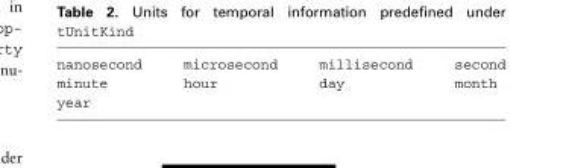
<table><tbody><tr><td>nanosecond</td><td>microsecond</td><td>millisecond</td><td>second</td></tr><tr><td>minute</td><td>hour</td><td>day</td><td>month</td></tr><tr><td>year</td><td></td><td></td><td></td></tr></tbody></table>